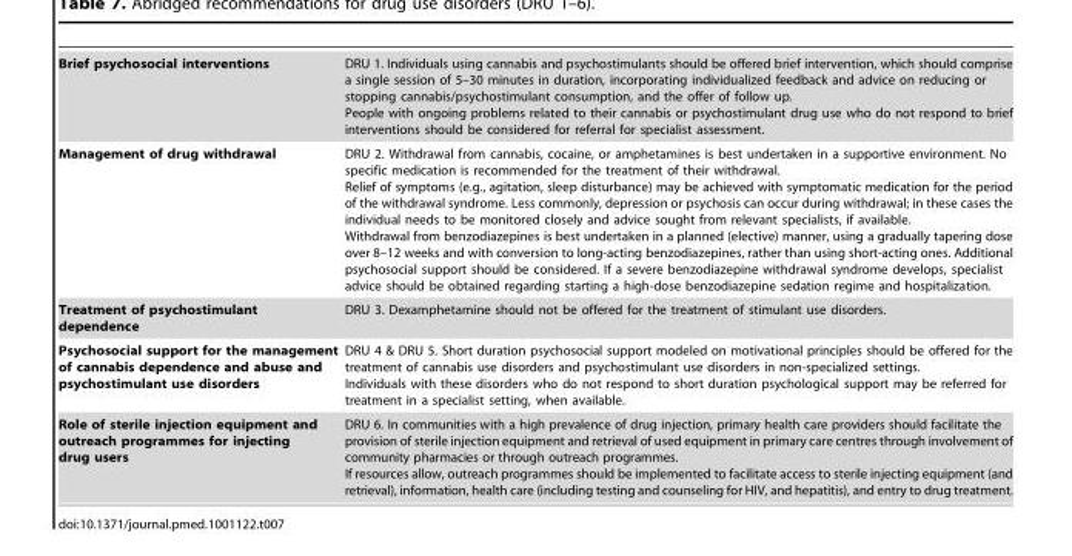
<table><tbody><tr><td>Brief psychosocial interventions</td><td>DRU 1. Individuals using cannabis and psychostimulants should be offered brief intervention, which should comprise a single session of 5–30 minutes in duration, incorporating individualized feedback and advice on reducing or stopping cannabis/psychostimulant consumption, and the offer of follow up. People with ongoing problems related to their cannabis or psychostimulant drug use who do not respond to brief interventions should be considered for referral for specialist assessment.</td></tr><tr><td>Management of drug withdrawal</td><td>DRU 2. Withdrawal from cannabis, cocaine, or amphetamines is best undertaken in a supportive environment. No specific medication is recommended for the treatment of their withdrawal. Relief of symptoms (e.g., agitation, sleep disturbance) may be achieved with symptomatic medication for the period of the withdrawal syndrome. Less commonly, depression or psychosis can occur during withdrawal; in these cases the individual needs to be monitored closely and advice sought from relevant specialists, if available. Withdrawal from benzodiazepines is best undertaken in a planned (elective) manner, using a gradually tapering dose over 8–12 weeks and with conversion to long-acting benzodiazepines, rather than using short-acting ones. Additional psychosocial support should be considered. If a severe benzodiazepine withdrawal syndrome develops, specialist advice should be obtained regarding starting a high-dose benzodiazepine sedation regime and hospitalization.</td></tr><tr><td>Treatment of psychostimulant dependence</td><td>DRU 3. Dexamphetamine should not be offered for the treatment of stimulant use disorders.</td></tr><tr><td>Psychosocial support for the management of cannabis dependence and abuse and psychostimulant use disorders</td><td>DRU 4 &amp; DRU 5. Short duration psychosocial support modeled on motivational principles should be offered for the treatment of cannabis use disorders and psychostimulant use disorders in non-specialized settings. Individuals with these disorders who do not respond to short duration psychological support may be referred for treatment in a specialist setting, when available.</td></tr><tr><td>Role of sterile injection equipment and outreach programmes for injecting drug users</td><td>DRU 6. In communities with a high prevalence of drug injection, primary health care providers should facilitate the provision of sterile injection equipment and retrieval of used equipment in primary care centres through involvement of community pharmacies or through outreach programmes. If resources allow, outreach programmes should be implemented to facilitate access to sterile injecting equipment (and retrieval), information, health care (including testing and counseling for HIV, and hepatitis), and entry to drug treatment.</td></tr></tbody></table>